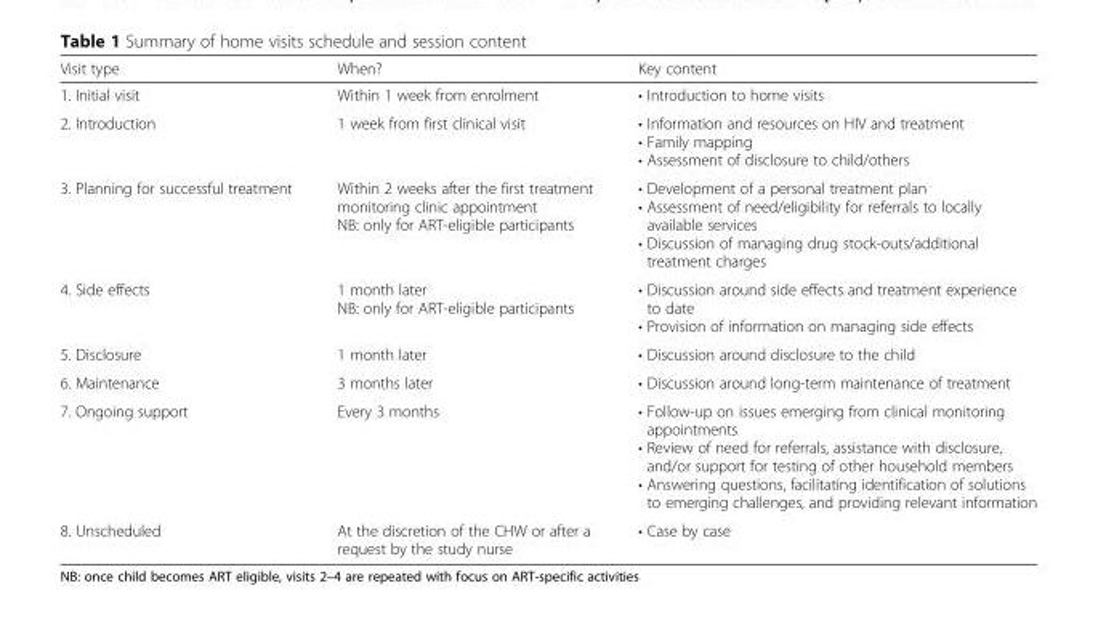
<table><thead><tr><td>Visit type</td><td>When?</td><td>Key content</td></tr></thead><tbody><tr><td>1. Initial visit</td><td>Within 1 week from enrolment</td><td>• Introduction to home visits</td></tr><tr><td>2. Introduction</td><td>1 week from first clinical visit</td><td>• Information and resources on HIV and treatment • Family mapping • Assessment of disclosure to child/others</td></tr><tr><td>3. Planning for successful treatment</td><td>Within 2 weeks after the first treatment monitoring clinic appointment NB: only for ART-eligible participants</td><td>• Development of a personal treatment plan • Assessment of need/eligibility for referrals to locally available services • Discussion of managing drug stock-outs/additional treatment charges</td></tr><tr><td>4. Side effects</td><td>1 month later NB: only for ART-eligible participants</td><td>• Discussion around side effects and treatment experience to date • Provision of information on managing side effects</td></tr><tr><td>5. Disclosure</td><td>1 month later</td><td>• Discussion around disclosure to the child</td></tr><tr><td>6. Maintenance</td><td>3 months later</td><td>• Discussion around long-term maintenance of treatment</td></tr><tr><td>7. Ongoing support</td><td>Every 3 months</td><td>• Follow-up on issues emerging from clinical monitoring appointments • Review of need for referrals, assistance with disclosure, and/or support for testing of other household members • Answering questions, facilitating identification of solutions to emerging challenges, and providing relevant information</td></tr><tr><td>8. Unscheduled</td><td>At the discretion of the CHW or after a request by the study nurse</td><td>• Case by case</td></tr></tbody></table>